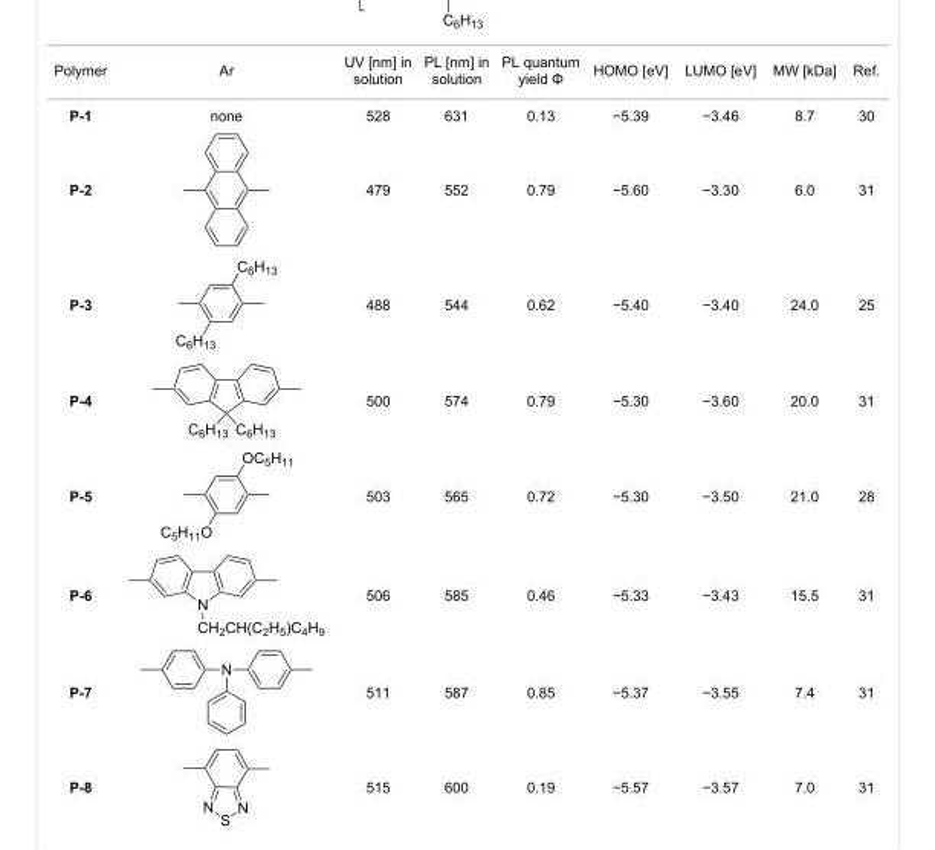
<table><tbody><tr><td>Polymer</td><td>Ar</td><td>UV [nm] in solution</td><td>PL [nm] in solution</td><td>PL quantum yield Φ</td><td>HOMO [eV]</td><td>LUMO [eV]</td><td>MW [kDa]</td><td>Ref.</td></tr><tr><td>P-1</td><td>none</td><td>528</td><td>631</td><td>0.13</td><td>−5.39</td><td>−3.46</td><td>8.7</td><td>30</td></tr><tr><td>P-2</td><td></td><td>479</td><td>552</td><td>0.79</td><td>−5.60</td><td>−3.30</td><td>6.0</td><td>31</td></tr><tr><td>P-3</td><td></td><td>488</td><td>544</td><td>0.62</td><td>−5.40</td><td>−3.40</td><td>24.0</td><td>25</td></tr><tr><td>P-4</td><td></td><td>500</td><td>574</td><td>0.79</td><td>−5.30</td><td>−3.60</td><td>20.0</td><td>31</td></tr><tr><td>P-5</td><td></td><td>503</td><td>565</td><td>0.72</td><td>−5.30</td><td>−3.50</td><td>21.0</td><td>28</td></tr><tr><td>P-6</td><td></td><td>506</td><td>585</td><td>0.46</td><td>−5.33</td><td>−3.43</td><td>15.5</td><td>31</td></tr><tr><td>P-7</td><td></td><td>511</td><td>587</td><td>0.85</td><td>−5.37</td><td>−3.55</td><td>7.4</td><td>31</td></tr><tr><td>P-8</td><td></td><td>515</td><td>600</td><td>0.19</td><td>−5.57</td><td>−3.57</td><td>7.0</td><td>31</td></tr></tbody></table>